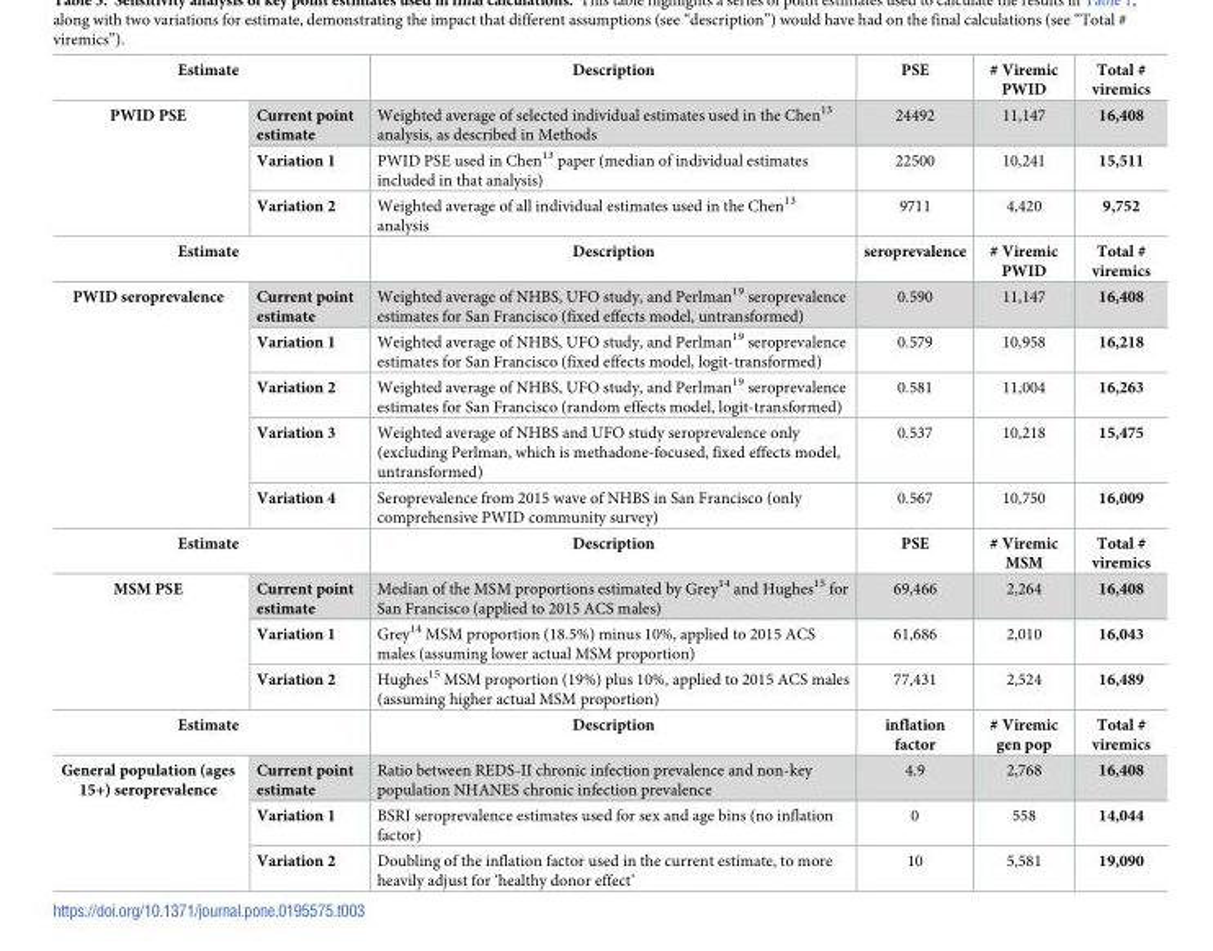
<table><tbody><tr><td colspan="2">Estimate</td><td>Description</td><td>PSE</td><td># Viremic PWID</td><td>Total # viremics</td></tr><tr><td rowspan="3">PWID PSE</td><td>Current point estimate</td><td>Weighted average of selected individual estimates used in the Chen<sup>13</sup> analysis, as described in Methods</td><td>24492</td><td>11,147</td><td>16,408</td></tr><tr><td>Variation 1</td><td>PWID PSE used in Chen<sup>13</sup> paper (median of individual estimates included in that analysis)</td><td>22500</td><td>10,241</td><td>15,511</td></tr><tr><td>Variation 2</td><td>Weighted average of all individual estimates used in the Chen<sup>13</sup> analysis</td><td>9711</td><td>4,420</td><td>9,752</td></tr><tr><td colspan="2">Estimate</td><td>Description</td><td>seroprevalence</td><td># Viremic PWID</td><td>Total # viremics</td></tr><tr><td rowspan="5">PWID seroprevalence</td><td>Current point estimate</td><td>Weighted average of NHBS, UFO study, and Perlman<sup>19</sup> seroprevalence estimates for San Francisco (fixed effects model, untransformed)</td><td>0.590</td><td>11,147</td><td>16,408</td></tr><tr><td>Variation 1</td><td>Weighted average of NHBS, UFO study, and Perlman<sup>19</sup> seroprevalence estimates for San Francisco (fixed effects model, logit-transformed)</td><td>0.579</td><td>10,958</td><td>16,218</td></tr><tr><td>Variation 2</td><td>Weighted average of NHBS, UFO study, and Perlman<sup>19</sup> seroprevalence estimates for San Francisco (random effects model, logit-transformed)</td><td>0.581</td><td>11,004</td><td>16,263</td></tr><tr><td>Variation 3</td><td>Weighted average of NHBS and UFO study seroprevalence only (excluding Perlman, which is methadone-focused, fixed effects model, untransformed)</td><td>0.537</td><td>10,218</td><td>15,475</td></tr><tr><td>Variation 4</td><td>Seroprevalence from 2015 wave of NHBS in San Francisco (only comprehensive PWID community survey)</td><td>0.567</td><td>10,750</td><td>16,009</td></tr><tr><td colspan="2">Estimate</td><td>Description</td><td>PSE</td><td># Viremic MSM</td><td>Total # viremics</td></tr><tr><td rowspan="3">MSM PSE</td><td>Current point estimate</td><td>Median of the MSM proportions estimated by Grey<sup>14</sup> and Hughes<sup>15</sup> for San Francisco (applied to 2015 ACS males)</td><td>69,466</td><td>2,264</td><td>16,408</td></tr><tr><td>Variation 1</td><td>Grey<sup>14</sup> MSM proportion (18.5%) minus 10%, applied to 2015 ACS males (assuming lower actual MSM proportion)</td><td>61,686</td><td>2,010</td><td>16,043</td></tr><tr><td>Variation 2</td><td>Hughes<sup>15</sup> MSM proportion (19%) plus 10%, applied to 2015 ACS males (assuming higher actual MSM proportion)</td><td>77,431</td><td>2,524</td><td>16,489</td></tr><tr><td colspan="2">Estimate</td><td>Description</td><td>inflation factor</td><td># Viremic gen pop</td><td>Total # viremics</td></tr><tr><td rowspan="3">General population (ages 15+) seroprevalence</td><td>Current point estimate</td><td>Ratio between REDS-II chronic infection prevalence and non-key population NHANES chronic infection prevalence</td><td>4.9</td><td>2,768</td><td>16,408</td></tr><tr><td>Variation 1</td><td>BSRI seroprevalence estimates used for sex and age bins (no inflation factor)</td><td>0</td><td>558</td><td>14,044</td></tr><tr><td>Variation 2</td><td>Doubling of the inflation factor used in the current estimate, to more heavily adjust for ‘healthy donor effect’</td><td>10</td><td>5,581</td><td>19,090</td></tr></tbody></table>